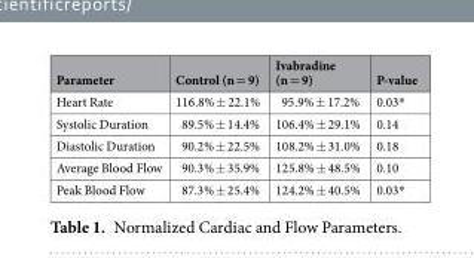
<table><thead><tr><td>Parameter</td><td>Control (n = 9)</td><td>Ivabradine (n = 9)</td><td>P-value</td></tr></thead><tbody><tr><td>Heart Rate</td><td>116.8% ± 22.1%</td><td>95.9% ± 17.2%</td><td>0.03*</td></tr><tr><td>Systolic Duration</td><td>89.5% ± 14.4%</td><td>106.4% ± 29.1%</td><td>0.14</td></tr><tr><td>Diastolic Duration</td><td>90.2% ± 22.5%</td><td>108.2% ± 31.0%</td><td>0.18</td></tr><tr><td>Average Blood Flow</td><td>90.3% ± 35.9%</td><td>125.8% ± 48.5%</td><td>0.10</td></tr><tr><td>Peak Blood Flow</td><td>87.3% ± 25.4%</td><td>124.2% ± 40.5%</td><td>0.03*</td></tr></tbody></table>